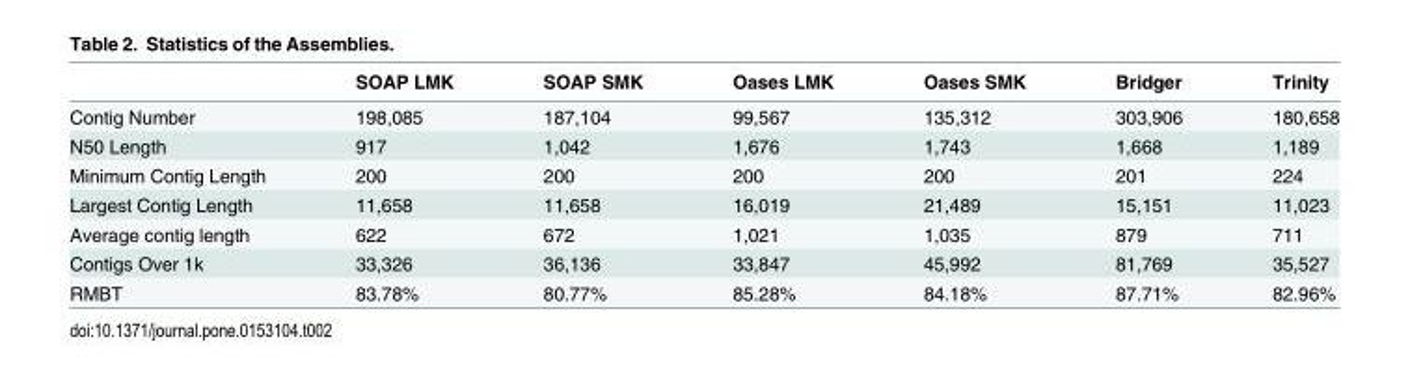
<table><thead><tr><td></td><td>SOAP LMK</td><td>SOAP SMK</td><td>Oases LMK</td><td>Oases SMK</td><td>Bridger</td><td>Trinity</td></tr></thead><tbody><tr><td>Contig Number</td><td>198,085</td><td>187,104</td><td>99,567</td><td>135,312</td><td>303,906</td><td>180,658</td></tr><tr><td>N50 Length</td><td>917</td><td>1,042</td><td>1,676</td><td>1,743</td><td>1,668</td><td>1,189</td></tr><tr><td>Minimum Contig Length</td><td>200</td><td>200</td><td>200</td><td>200</td><td>201</td><td>224</td></tr><tr><td>Largest Contig Length</td><td>11,658</td><td>11,658</td><td>16,019</td><td>21,489</td><td>15,151</td><td>11,023</td></tr><tr><td>Average contig length</td><td>622</td><td>672</td><td>1,021</td><td>1,035</td><td>879</td><td>711</td></tr><tr><td>Contigs Over 1k</td><td>33,326</td><td>36,136</td><td>33,847</td><td>45,992</td><td>81,769</td><td>35,527</td></tr><tr><td>RMBT</td><td>83.78%</td><td>80.77%</td><td>85.28%</td><td>84.18%</td><td>87.71%</td><td>82.96%</td></tr></tbody></table>